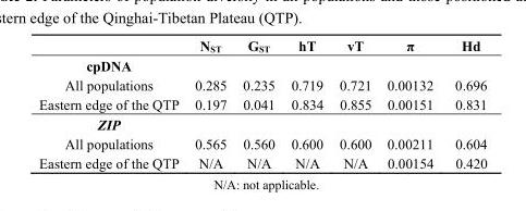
<table><thead><tr><td></td><td>N<sub>ST</sub></td><td>G<sub>ST</sub></td><td>hT</td><td>vT</td><td>π</td><td>Hd</td></tr></thead><tbody><tr><td colspan="7">cpDNA</td></tr><tr><td>All populations</td><td>0.285</td><td>0.235</td><td>0.719</td><td>0.721</td><td>0.00132</td><td>0.696</td></tr><tr><td>Eastern edge of the QTP</td><td>0.197</td><td>0.041</td><td>0.834</td><td>0.855</td><td>0.00151</td><td>0.831</td></tr><tr><td colspan="7">ZIP</td></tr><tr><td>All populations</td><td>0.565</td><td>0.560</td><td>0.600</td><td>0.600</td><td>0.00211</td><td>0.604</td></tr><tr><td>Eastern edge of the QTP</td><td>N/A</td><td>N/A</td><td>N/A</td><td>N/A</td><td>0.00154</td><td>0.420</td></tr></tbody></table>